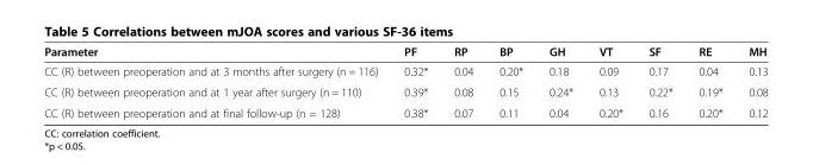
<table><thead><tr><td>Parameter</td><td>PF</td><td>RP</td><td>BP</td><td>GH</td><td>VT</td><td>SF</td><td>RE</td><td>MH</td></tr></thead><tbody><tr><td>CC (R) between preoperation and at 3 months after surgery (n = 116)</td><td>0.32*</td><td>0.04</td><td>0.20*</td><td>0.18</td><td>0.09</td><td>0.17</td><td>0.04</td><td>0.13</td></tr><tr><td>CC (R) between preoperation and at 1 year after surgery (n = 110)</td><td>0.39*</td><td>0.08</td><td>0.15</td><td>0.24*</td><td>0.13</td><td>0.22*</td><td>0.19*</td><td>0.08</td></tr><tr><td>CC (R) between preoperation and at final follow-up (n = 128)</td><td>0.38*</td><td>0.07</td><td>0.11</td><td>0.04</td><td>0.20*</td><td>0.16</td><td>0.20*</td><td>0.12</td></tr></tbody></table>